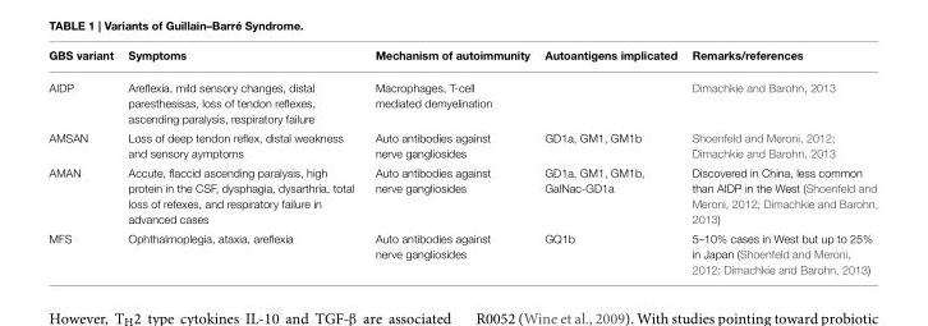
<table><thead><tr><td>GBS variant</td><td>Symptoms</td><td>Mechanism of autoimmunity</td><td>Autoantigens implicated</td><td>Remarks/references</td></tr></thead><tbody><tr><td>AIDP</td><td>Areflexia, mild sensory changes, distal paresthesisas, loss of tendon reflexes, ascending paralysis, respiratory failure</td><td>Macrophages, T-cell mediated demyelination</td><td></td><td>Dimachkie and Barohn, 2013</td></tr><tr><td>AMSAN</td><td>Loss of deep tendon reflex, distal weakness and sensory aymptoms</td><td>Auto antibodies against nerve gangliosides</td><td>GD1a, GM1, GM1b</td><td>Shoenfeld and Meroni, 2012; Dimachkie and Barohn, 2013</td></tr><tr><td>AMAN</td><td>Accute, flaccid ascending paralysis, high protein in the CSF, dysphagia, dysarthria, total loss of refexes, and respiratory failure in advanced cases</td><td>Auto antibodies against nerve gangliosides</td><td>GD1a, GM1, GM1b, GalNac-GD1a</td><td>Discovered in China, less common than AIDP in the West (Shoenfeld and Meroni, 2012; Dimachkie and Barohn, 2013)</td></tr><tr><td>MFS</td><td>Ophthalmoplegia, ataxia, areflexia</td><td>Auto antibodies against nerve gangliosides</td><td>GQ1b</td><td>5–10% cases in West but up to 25% in Japan (Shoenfeld and Meroni, 2012; Dimachkie and Barohn, 2013)</td></tr></tbody></table>